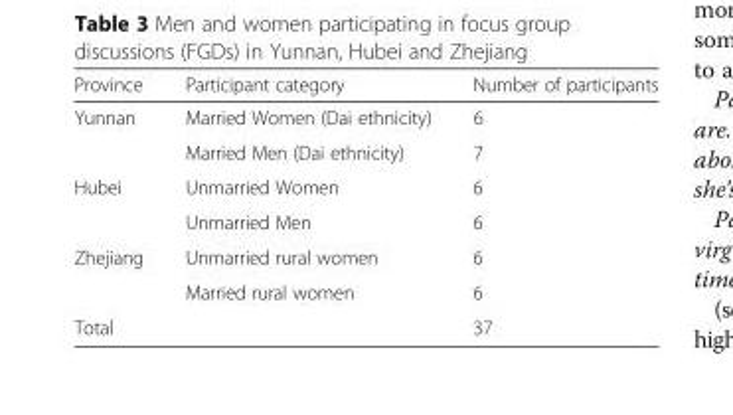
<table><thead><tr><td>Province</td><td>Participant category</td><td>Number of participants</td></tr></thead><tbody><tr><td rowspan="2">Yunnan</td><td>Married Women (Dai ethnicity)</td><td>6</td></tr><tr><td>Married Men (Dai ethnicity)</td><td>7</td></tr><tr><td rowspan="2">Hubei</td><td>Unmarried Women</td><td>6</td></tr><tr><td>Unmarried Men</td><td>6</td></tr><tr><td rowspan="2">Zhejiang</td><td>Unmarried rural women</td><td>6</td></tr><tr><td>Married rural women</td><td>6</td></tr><tr><td>Total</td><td></td><td>37</td></tr></tbody></table>